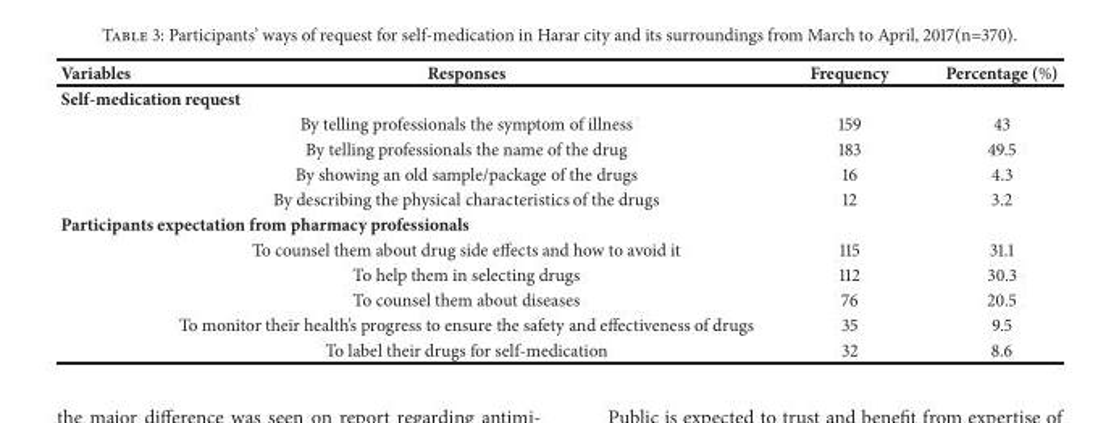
<table><thead><tr><td>Variables</td><td>Responses</td><td>Frequency</td><td>Percentage (%)</td></tr></thead><tbody><tr><td colspan="4">Self-medication request</td></tr><tr><td></td><td>By telling professionals the symptom of illness</td><td>159</td><td>43</td></tr><tr><td></td><td>By telling professionals the name of the drug</td><td>183</td><td>49.5</td></tr><tr><td></td><td>By showing an old sample/package of the drugs</td><td>16</td><td>4.3</td></tr><tr><td></td><td>By describing the physical characteristics of the drugs</td><td>12</td><td>3.2</td></tr><tr><td colspan="4">Participants expectation from pharmacy professionals</td></tr><tr><td></td><td>To counsel them about drug side effects and how to avoid it</td><td>115</td><td>31.1</td></tr><tr><td></td><td>To help them in selecting drugs</td><td>112</td><td>30.3</td></tr><tr><td></td><td>To counsel them about diseases</td><td>76</td><td>20.5</td></tr><tr><td></td><td>To monitor their health’s progress to ensure the safety and effectiveness of drugs</td><td>35</td><td>9.5</td></tr><tr><td></td><td>To label their drugs for self-medication</td><td>32</td><td>8.6</td></tr></tbody></table>